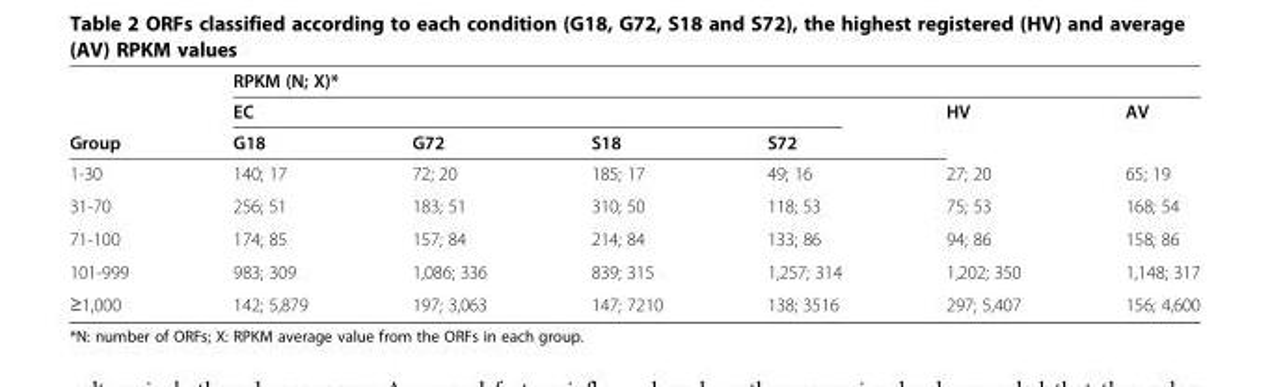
<table><thead><tr><td rowspan="3">Group</td><td colspan="6">RPKM (N; X)*</td></tr><tr><td colspan="4">EC</td><td rowspan="2">HV</td><td rowspan="2">AV</td></tr><tr><td>G18</td><td>G72</td><td>S18</td><td>S72</td></tr></thead><tbody><tr><td>1-30</td><td>140; 17</td><td>72; 20</td><td>185; 17</td><td>49; 16</td><td>27; 20</td><td>65; 19</td></tr><tr><td>31-70</td><td>256; 51</td><td>183; 51</td><td>310; 50</td><td>118; 53</td><td>75; 53</td><td>168; 54</td></tr><tr><td>71-100</td><td>174; 85</td><td>157; 84</td><td>214; 84</td><td>133; 86</td><td>94; 86</td><td>158; 86</td></tr><tr><td>101-999</td><td>983; 309</td><td>1,086; 336</td><td>839; 315</td><td>1,257; 314</td><td>1,202; 350</td><td>1,148; 317</td></tr><tr><td>≥1,000</td><td>142; 5,879</td><td>197; 3,063</td><td>147; 7210</td><td>138; 3516</td><td>297; 5,407</td><td>156; 4,600</td></tr></tbody></table>